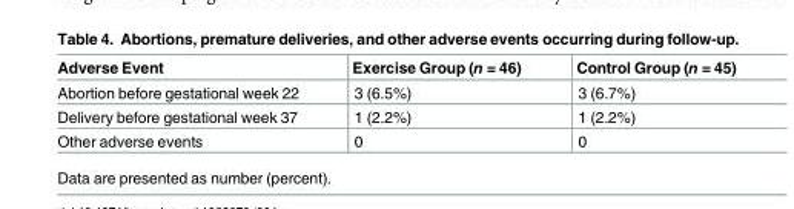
<table><thead><tr><td>Adverse Event</td><td>Exercise Group (n = 46)</td><td>Control Group (n = 45)</td></tr></thead><tbody><tr><td>Abortion before gestational week 22</td><td>3 (6.5%)</td><td>3 (6.7%)</td></tr><tr><td>Delivery before gestational week 37</td><td>1 (2.2%)</td><td>1 (2.2%)</td></tr><tr><td>Other adverse events</td><td>0</td><td>0</td></tr></tbody></table>